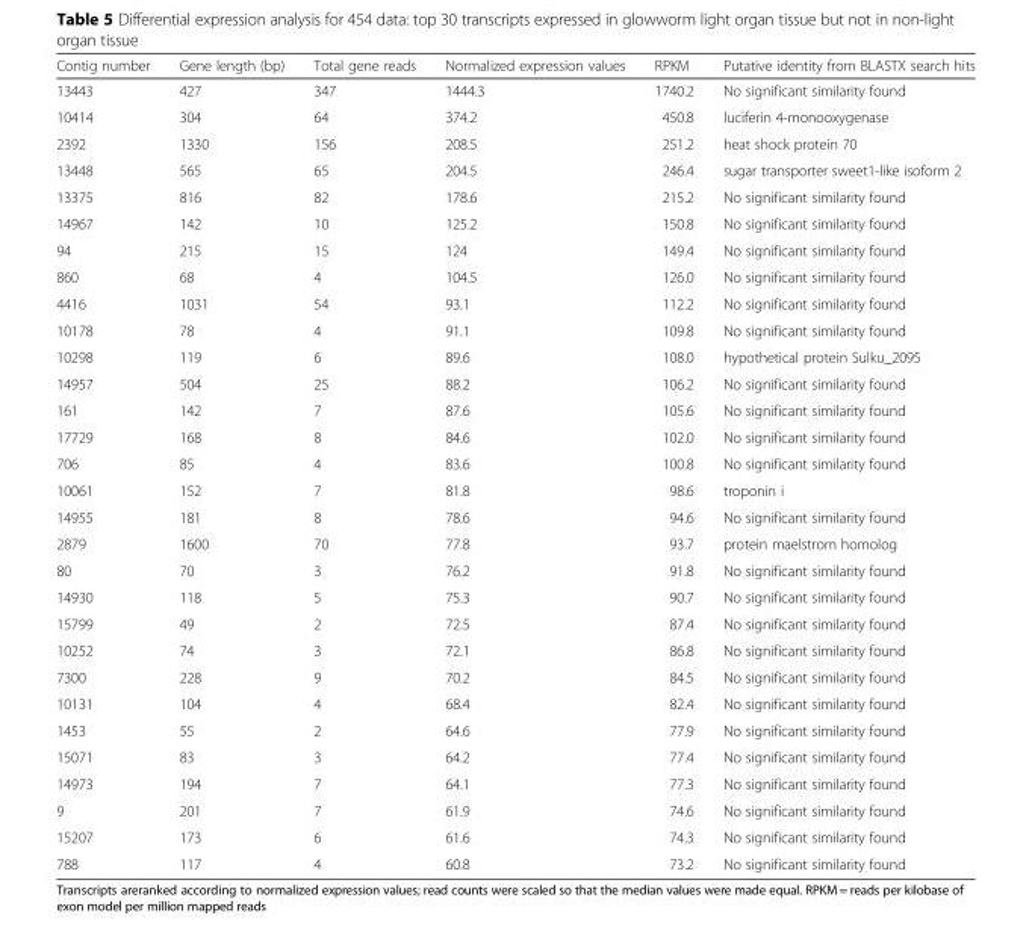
<table><thead><tr><td>Contig number</td><td>Gene length (bp)</td><td>Total gene reads</td><td>Normalized expression values</td><td>RPKM</td><td>Putative identity from BLASTX search hits</td></tr></thead><tbody><tr><td>13443</td><td>427</td><td>347</td><td>1444.3</td><td>1740.2</td><td>No significant similarity found</td></tr><tr><td>10414</td><td>304</td><td>64</td><td>374.2</td><td>450.8</td><td>luciferin 4-monooxygenase</td></tr><tr><td>2392</td><td>1330</td><td>156</td><td>208.5</td><td>251.2</td><td>heat shock protein 70</td></tr><tr><td>13448</td><td>565</td><td>65</td><td>204.5</td><td>246.4</td><td>sugar transporter sweet1-like isoform 2</td></tr><tr><td>13375</td><td>816</td><td>82</td><td>178.6</td><td>215.2</td><td>No significant similarity found</td></tr><tr><td>14967</td><td>142</td><td>10</td><td>125.2</td><td>150.8</td><td>No significant similarity found</td></tr><tr><td>94</td><td>215</td><td>15</td><td>124</td><td>149.4</td><td>No significant similarity found</td></tr><tr><td>860</td><td>68</td><td>4</td><td>104.5</td><td>126.0</td><td>No significant similarity found</td></tr><tr><td>4416</td><td>1031</td><td>54</td><td>93.1</td><td>112.2</td><td>No significant similarity found</td></tr><tr><td>10178</td><td>78</td><td>4</td><td>91.1</td><td>109.8</td><td>No significant similarity found</td></tr><tr><td>10298</td><td>119</td><td>6</td><td>89.6</td><td>108.0</td><td>hypothetical protein Sulku_2095</td></tr><tr><td>14957</td><td>504</td><td>25</td><td>88.2</td><td>106.2</td><td>No significant similarity found</td></tr><tr><td>161</td><td>142</td><td>7</td><td>87.6</td><td>105.6</td><td>No significant similarity found</td></tr><tr><td>17729</td><td>168</td><td>8</td><td>84.6</td><td>102.0</td><td>No significant similarity found</td></tr><tr><td>706</td><td>85</td><td>4</td><td>83.6</td><td>100.8</td><td>No significant similarity found</td></tr><tr><td>10061</td><td>152</td><td>7</td><td>81.8</td><td>98.6</td><td>troponin i</td></tr><tr><td>14955</td><td>181</td><td>8</td><td>78.6</td><td>94.6</td><td>No significant similarity found</td></tr><tr><td>2879</td><td>1600</td><td>70</td><td>77.8</td><td>93.7</td><td>protein maelstrom homolog</td></tr><tr><td>80</td><td>70</td><td>3</td><td>76.2</td><td>91.8</td><td>No significant similarity found</td></tr><tr><td>14930</td><td>118</td><td>5</td><td>75.3</td><td>90.7</td><td>No significant similarity found</td></tr><tr><td>15799</td><td>49</td><td>2</td><td>72.5</td><td>87.4</td><td>No significant similarity found</td></tr><tr><td>10252</td><td>74</td><td>3</td><td>72.1</td><td>86.8</td><td>No significant similarity found</td></tr><tr><td>7300</td><td>228</td><td>9</td><td>70.2</td><td>84.5</td><td>No significant similarity found</td></tr><tr><td>10131</td><td>104</td><td>4</td><td>68.4</td><td>82.4</td><td>No significant similarity found</td></tr><tr><td>1453</td><td>55</td><td>2</td><td>64.6</td><td>77.9</td><td>No significant similarity found</td></tr><tr><td>15071</td><td>83</td><td>3</td><td>64.2</td><td>77.4</td><td>No significant similarity found</td></tr><tr><td>14973</td><td>194</td><td>7</td><td>64.1</td><td>77.3</td><td>No significant similarity found</td></tr><tr><td>9</td><td>201</td><td>7</td><td>61.9</td><td>74.6</td><td>No significant similarity found</td></tr><tr><td>15207</td><td>173</td><td>6</td><td>61.6</td><td>74.3</td><td>No significant similarity found</td></tr><tr><td>788</td><td>117</td><td>4</td><td>60.8</td><td>73.2</td><td>No significant similarity found</td></tr></tbody></table>